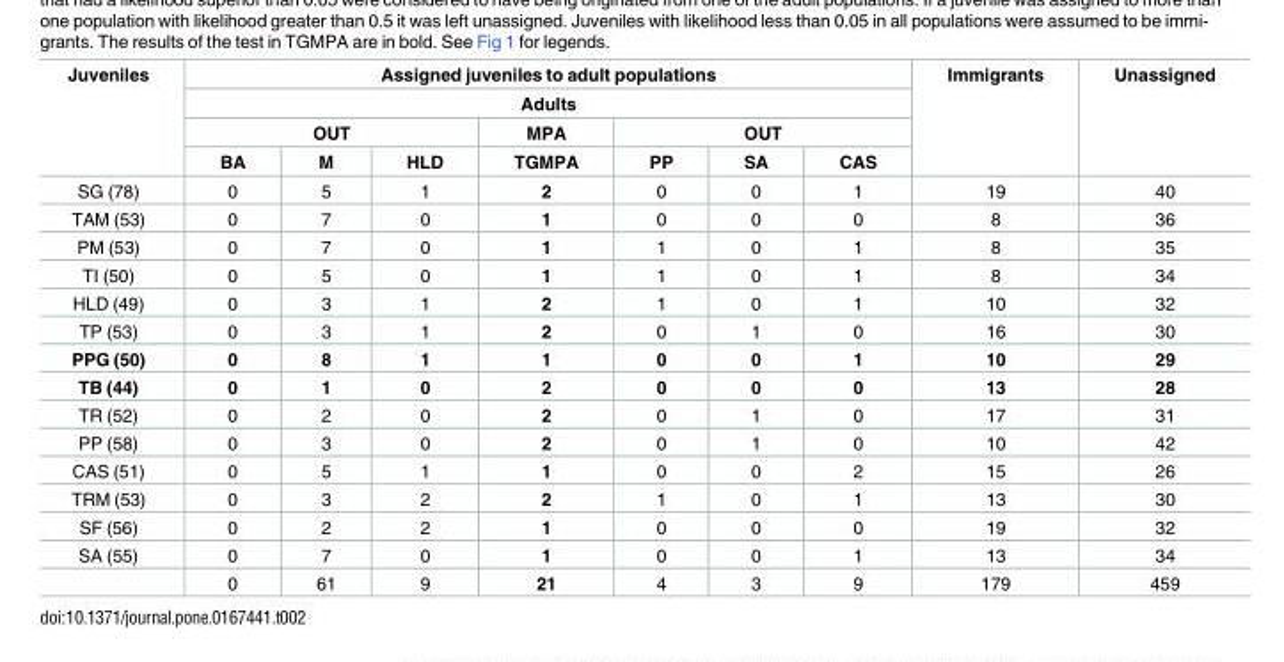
<table><thead><tr><td rowspan="4">Juveniles</td><td rowspan="2" colspan="7">Assigned juveniles to adult populations Adults</td><td rowspan="4">Immigrants</td><td rowspan="4">Unassigned</td></tr><tr></tr><tr><td colspan="3">OUT</td><td rowspan="2">MPA TGMPA</td><td colspan="3">OUT</td></tr><tr><td>BA</td><td>M</td><td>HLD</td><td>PP</td><td>SA</td><td>CAS</td></tr></thead><tbody><tr><td>SG (78)</td><td>0</td><td>5</td><td>1</td><td>2</td><td>0</td><td>0</td><td>1</td><td>19</td><td>40</td></tr><tr><td>TAM (53)</td><td>0</td><td>7</td><td>0</td><td>1</td><td>0</td><td>0</td><td>0</td><td>8</td><td>36</td></tr><tr><td>PM (53)</td><td>0</td><td>7</td><td>0</td><td>1</td><td>1</td><td>0</td><td>1</td><td>8</td><td>35</td></tr><tr><td>TI (50)</td><td>0</td><td>5</td><td>0</td><td>1</td><td>1</td><td>0</td><td>1</td><td>8</td><td>34</td></tr><tr><td>HLD (49)</td><td>0</td><td>3</td><td>1</td><td>2</td><td>1</td><td>0</td><td>1</td><td>10</td><td>32</td></tr><tr><td>TP (53)</td><td>0</td><td>3</td><td>1</td><td>2</td><td>0</td><td>1</td><td>0</td><td>16</td><td>30</td></tr><tr><td>PPG (50)</td><td>0</td><td>8</td><td>1</td><td>1</td><td>0</td><td>0</td><td>1</td><td>10</td><td>29</td></tr><tr><td>TB (44)</td><td>0</td><td>1</td><td>0</td><td>2</td><td>0</td><td>0</td><td>0</td><td>13</td><td>28</td></tr><tr><td>TR (52)</td><td>0</td><td>2</td><td>0</td><td>2</td><td>0</td><td>1</td><td>0</td><td>17</td><td>31</td></tr><tr><td>PP (58)</td><td>0</td><td>3</td><td>0</td><td>2</td><td>0</td><td>1</td><td>0</td><td>10</td><td>42</td></tr><tr><td>CAS (51)</td><td>0</td><td>5</td><td>1</td><td>1</td><td>0</td><td>0</td><td>2</td><td>15</td><td>26</td></tr><tr><td>TRM (53)</td><td>0</td><td>3</td><td>2</td><td>2</td><td>1</td><td>0</td><td>1</td><td>13</td><td>30</td></tr><tr><td>SF (56)</td><td>0</td><td>2</td><td>2</td><td>1</td><td>0</td><td>0</td><td>0</td><td>19</td><td>32</td></tr><tr><td rowspan="2">SA (55)</td><td>0</td><td>7</td><td>0</td><td>1</td><td>0</td><td>0</td><td>1</td><td>13</td><td>34</td></tr><tr><td>0</td><td>61</td><td>9</td><td>21</td><td>4</td><td>3</td><td>9</td><td>179</td><td>459</td></tr></tbody></table>